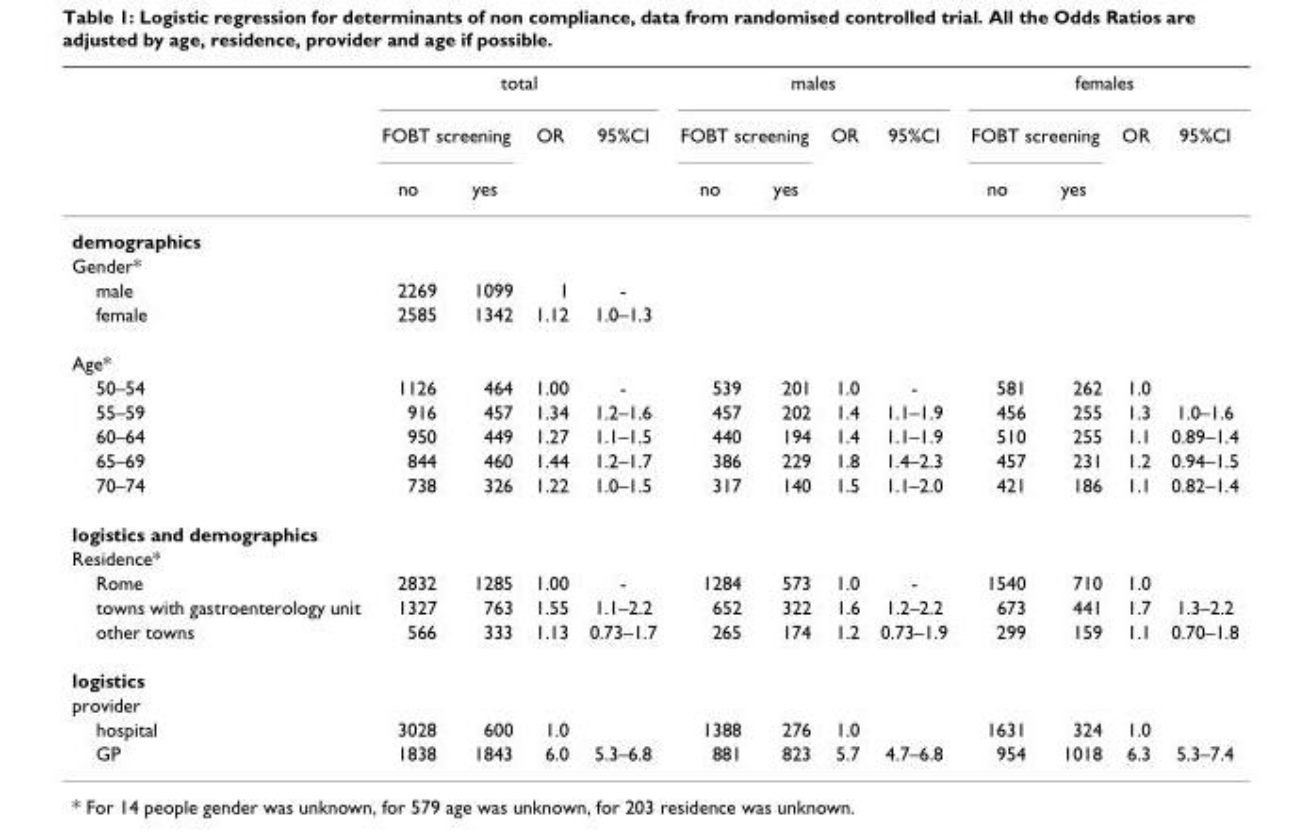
<table><thead><tr><td rowspan="3"></td><td colspan="4">total</td><td colspan="4">males</td><td colspan="4">females</td></tr><tr><td colspan="2">FOBT screening</td><td rowspan="2">OR</td><td rowspan="2">95%CI</td><td colspan="2">FOBT screening</td><td rowspan="2">OR</td><td rowspan="2">95%CI</td><td colspan="2">FOBT screening</td><td rowspan="2">OR</td><td rowspan="2">95%CI</td></tr><tr><td>no</td><td>yes</td><td>no</td><td>yes</td><td>no</td><td>yes</td></tr></thead><tbody><tr><td colspan="13">demographics</td></tr><tr><td colspan="13">Gender*</td></tr><tr><td>male</td><td>2269</td><td>1099</td><td>1</td><td>-</td><td></td><td></td><td></td><td></td><td></td><td></td><td></td><td></td></tr><tr><td>female</td><td>2585</td><td>1342</td><td>1.12</td><td>1.0–1.3</td><td></td><td></td><td></td><td></td><td></td><td></td><td></td><td></td></tr><tr><td colspan="13">Age*</td></tr><tr><td>50–54</td><td>1126</td><td>464</td><td>1.00</td><td>-</td><td>539</td><td>201</td><td>1.0</td><td>-</td><td>581</td><td>262</td><td>1.0</td><td></td></tr><tr><td>55–59</td><td>916</td><td>457</td><td>1.34</td><td>1.2–1.6</td><td>457</td><td>202</td><td>1.4</td><td>1.1–1.9</td><td>456</td><td>255</td><td>1.3</td><td>1.0–1.6</td></tr><tr><td>60–64</td><td>950</td><td>449</td><td>1.27</td><td>1.1–1.5</td><td>440</td><td>194</td><td>1.4</td><td>1.1–1.9</td><td>510</td><td>255</td><td>1.1</td><td>0.89–1.4</td></tr><tr><td>65–69</td><td>844</td><td>460</td><td>1.44</td><td>1.2–1.7</td><td>386</td><td>229</td><td>1.8</td><td>1.4–2.3</td><td>457</td><td>231</td><td>1.2</td><td>0.94–1.5</td></tr><tr><td>70–74</td><td>738</td><td>326</td><td>1.22</td><td>1.0–1.5</td><td>317</td><td>140</td><td>1.5</td><td>1.1–2.0</td><td>421</td><td>186</td><td>1.1</td><td>0.82–1.4</td></tr><tr><td colspan="13">logistics and demographics</td></tr><tr><td colspan="13">Residence*</td></tr><tr><td>Rome</td><td>2832</td><td>1285</td><td>1.00</td><td>-</td><td>1284</td><td>573</td><td>1.0</td><td>-</td><td>1540</td><td>710</td><td>1.0</td><td></td></tr><tr><td>towns with gastroenterology unit</td><td>1327</td><td>763</td><td>1.55</td><td>1.1–2.2</td><td>652</td><td>322</td><td>1.6</td><td>1.2–2.2</td><td>673</td><td>441</td><td>1.7</td><td>1.3–2.2</td></tr><tr><td>other towns</td><td>566</td><td>333</td><td>1.13</td><td>0.73–1.7</td><td>265</td><td>174</td><td>1.2</td><td>0.73–1.9</td><td>299</td><td>159</td><td>1.1</td><td>0.70–1.8</td></tr><tr><td colspan="13">logistics</td></tr><tr><td colspan="13">provider</td></tr><tr><td>hospital</td><td>3028</td><td>600</td><td>1.0</td><td></td><td>1388</td><td>276</td><td>1.0</td><td></td><td>1631</td><td>324</td><td>1.0</td><td></td></tr><tr><td>GP</td><td>1838</td><td>1843</td><td>6.0</td><td>5.3–6.8</td><td>881</td><td>823</td><td>5.7</td><td>4.7–6.8</td><td>954</td><td>1018</td><td>6.3</td><td>5.3–7.4</td></tr></tbody></table>